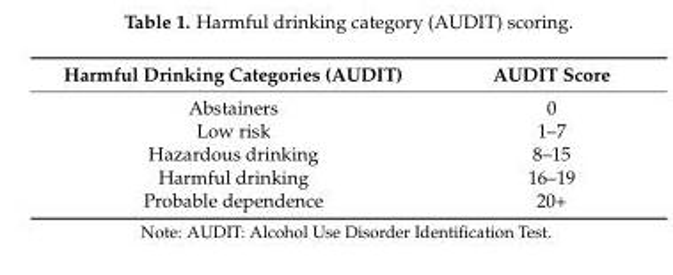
<table><thead><tr><td>Harmful Drinking Categories (AUDIT)</td><td>AUDIT Score</td></tr></thead><tbody><tr><td>Abstainers</td><td>0</td></tr><tr><td>Low risk</td><td>1–7</td></tr><tr><td>Hazardous drinking</td><td>8–15</td></tr><tr><td>Harmful drinking</td><td>16–19</td></tr><tr><td>Probable dependence</td><td>20+</td></tr></tbody></table>